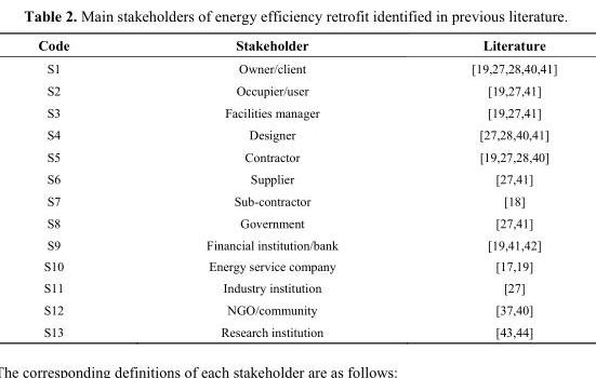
<table><thead><tr><td>Code</td><td>Stakeholder</td><td>Literature</td></tr></thead><tbody><tr><td>S1</td><td>Owner/client</td><td>[19,27,28,40,41]</td></tr><tr><td>S2</td><td>Occupier/user</td><td>[19,27,41]</td></tr><tr><td>S3</td><td>Facilities manager</td><td>[19,27,41]</td></tr><tr><td>S4</td><td>Designer</td><td>[27,28,40,41]</td></tr><tr><td>S5</td><td>Contractor</td><td>[19,27,28,40]</td></tr><tr><td>S6</td><td>Supplier</td><td>[27,41]</td></tr><tr><td>S7</td><td>Sub-contractor</td><td>[18]</td></tr><tr><td>S8</td><td>Government</td><td>[27,41]</td></tr><tr><td>S9</td><td>Financial institution/bank</td><td>[19,41,42]</td></tr><tr><td>S10</td><td>Energy service company</td><td>[17,19]</td></tr><tr><td>S11</td><td>Industry institution</td><td>[27]</td></tr><tr><td>S12</td><td>NGO/community</td><td>[37,40]</td></tr><tr><td>S13</td><td>Research institution</td><td>[43,44]</td></tr></tbody></table>